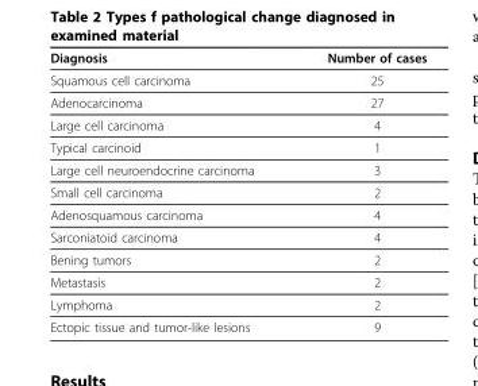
<table><thead><tr><td>Diagnosis</td><td>Number of cases</td></tr></thead><tbody><tr><td>Squamous cell carcinoma</td><td>25</td></tr><tr><td>Adenocarcinoma</td><td>27</td></tr><tr><td>Large cell carcinoma</td><td>4</td></tr><tr><td>Typical carcinoid</td><td>1</td></tr><tr><td>Large cell neuroendocrine carcinoma</td><td>3</td></tr><tr><td>Small cell carcinoma</td><td>2</td></tr><tr><td>Adenosquamous carcinoma</td><td>4</td></tr><tr><td>Sarconiatoid carcinoma</td><td>4</td></tr><tr><td>Bening tumors</td><td>2</td></tr><tr><td>Metastasis</td><td>2</td></tr><tr><td>Lymphoma</td><td>2</td></tr><tr><td>Ectopic tissue and tumor-like lesions</td><td>9</td></tr></tbody></table>